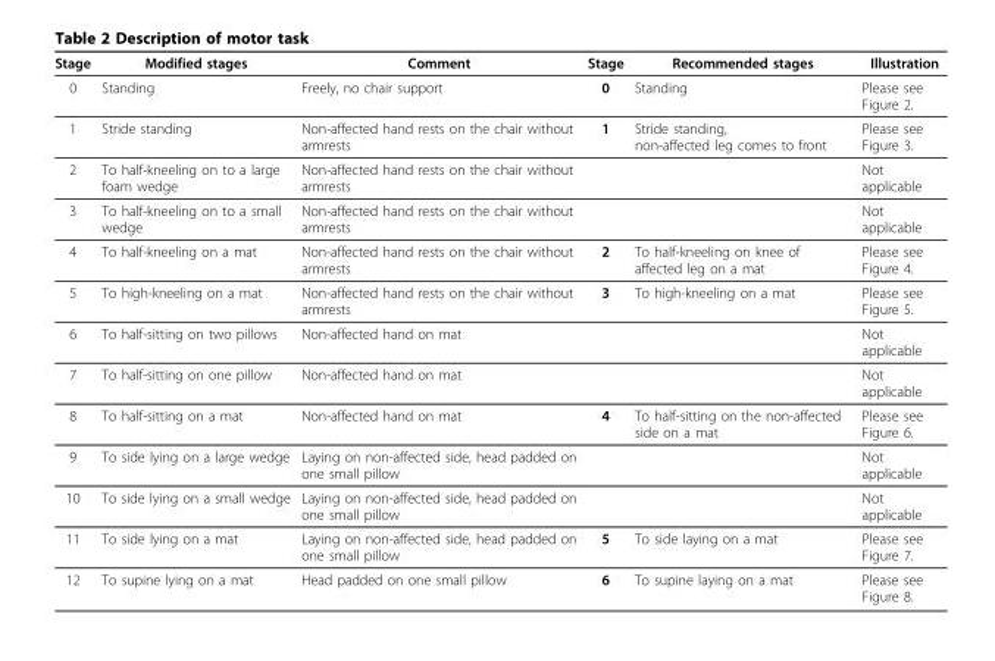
<table><thead><tr><td>Stage</td><td>Modified stages</td><td>Comment</td><td>Stage</td><td>Recommended stages</td><td>Illustration</td></tr></thead><tbody><tr><td>0</td><td>Standing</td><td>Freely, no chair support</td><td>0</td><td>Standing</td><td>Please see Figure 2.</td></tr><tr><td>1</td><td>Stride standing</td><td>Non-affected hand rests on the chair without armrests</td><td>1</td><td>Stride standing, non-affected leg comes to front</td><td>Please see Figure 3.</td></tr><tr><td>2</td><td>To half-kneeling on to a large foam wedge</td><td>Non-affected hand rests on the chair without armrests</td><td></td><td></td><td>Not applicable</td></tr><tr><td>3</td><td>To half-kneeling on to a small wedge</td><td>Non-affected hand rests on the chair without armrests</td><td></td><td></td><td>Not applicable</td></tr><tr><td>4</td><td>To half-kneeling on a mat</td><td>Non-affected hand rests on the chair without armrests</td><td>2</td><td>To half-kneeling on knee of affected leg on a mat</td><td>Please see Figure 4.</td></tr><tr><td>5</td><td>To high-kneeling on a mat</td><td>Non-affected hand rests on the chair without armrests</td><td>3</td><td>To high-kneeling on a mat</td><td>Please see Figure 5.</td></tr><tr><td>6</td><td>To half-sitting on two pillows</td><td>Non-affected hand on mat</td><td></td><td></td><td>Not applicable</td></tr><tr><td>7</td><td>To half-sitting on one pillow</td><td>Non-affected hand on mat</td><td></td><td></td><td>Not applicable</td></tr><tr><td>8</td><td>To half-sitting on a mat</td><td>Non-affected hand on mat</td><td>4</td><td>To half-sitting on the non-affected side on a mat</td><td>Please see Figure 6.</td></tr><tr><td>9</td><td>To side lying on a large wedge</td><td>Laying on non-affected side, head padded on one small pillow</td><td></td><td></td><td>Not applicable</td></tr><tr><td>10</td><td>To side lying on a small wedge</td><td>Laying on non-affected side, head padded on one small pillow</td><td></td><td></td><td>Not applicable</td></tr><tr><td>11</td><td>To side lying on a mat</td><td>Laying on non-affected side, head padded on one small pillow</td><td>5</td><td>To side laying on a mat</td><td>Please see Figure 7.</td></tr><tr><td>12</td><td>To supine lying on a mat</td><td>Head padded on one small pillow</td><td>6</td><td>To supine laying on a mat</td><td>Please see Figure 8.</td></tr></tbody></table>